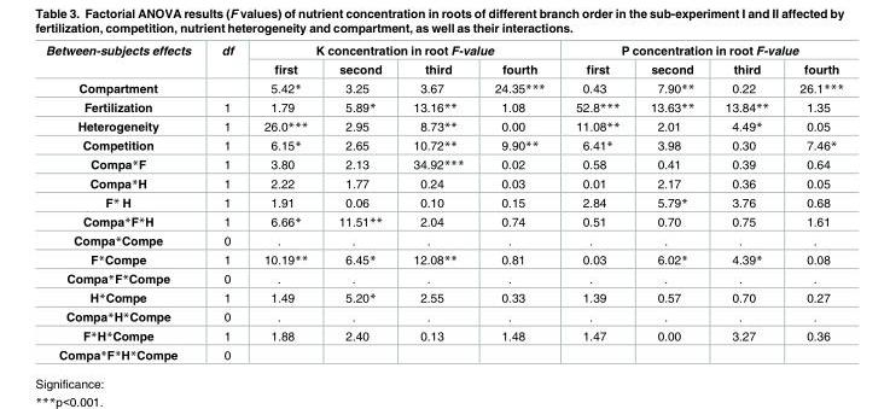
<table><thead><tr><td rowspan="2">Between-subjects effects</td><td rowspan="2">df</td><td colspan="4">K concentration in root F-value</td><td colspan="4">P concentration in root F-value</td></tr><tr><td>first</td><td>second</td><td>third</td><td>fourth</td><td>first</td><td>second</td><td>third</td><td>fourth</td></tr></thead><tbody><tr><td>Compartment</td><td></td><td>5.42*</td><td>3.25</td><td>3.67</td><td>24.35***</td><td>0.43</td><td>7.90**</td><td>0.22</td><td>26.1***</td></tr><tr><td>Fertilization</td><td>1</td><td>1.79</td><td>5.89*</td><td>13.16**</td><td>1.08</td><td>52.8***</td><td>13.63**</td><td>13.84**</td><td>1.35</td></tr><tr><td>Heterogeneity</td><td>1</td><td>26.0***</td><td>2.95</td><td>8.73**</td><td>0.00</td><td>11.08**</td><td>2.01</td><td>4.49*</td><td>0.05</td></tr><tr><td>Competition</td><td>1</td><td>6.15*</td><td>2.65</td><td>10.72**</td><td>9.90**</td><td>6.41*</td><td>3.98</td><td>0.30</td><td>7.46*</td></tr><tr><td>Compa*F</td><td>1</td><td>3.80</td><td>2.13</td><td>34.92***</td><td>0.02</td><td>0.58</td><td>0.41</td><td>0.39</td><td>0.64</td></tr><tr><td>Compa*H</td><td>1</td><td>2.22</td><td>1.77</td><td>0.24</td><td>0.03</td><td>0.01</td><td>2.17</td><td>0.36</td><td>0.05</td></tr><tr><td>F* H</td><td>1</td><td>1.91</td><td>0.06</td><td>0.10</td><td>0.15</td><td>2.84</td><td>5.79*</td><td>3.76</td><td>0.68</td></tr><tr><td>Compa*F*H</td><td>1</td><td>6.66*</td><td>11.51**</td><td>2.04</td><td>0.74</td><td>0.51</td><td>0.70</td><td>0.75</td><td>1.61</td></tr><tr><td>Compa*Compe</td><td>0</td><td>.</td><td>.</td><td>.</td><td>.</td><td>.</td><td>.</td><td>.</td><td>.</td></tr><tr><td>F*Compe</td><td>1</td><td>10.19**</td><td>6.45*</td><td>12.08**</td><td>0.81</td><td>0.03</td><td>6.02*</td><td>4.39*</td><td>0.08</td></tr><tr><td>Compa*F*Compe</td><td>0</td><td>.</td><td>.</td><td>.</td><td>.</td><td>.</td><td>.</td><td>.</td><td>.</td></tr><tr><td>H*Compe</td><td>1</td><td>1.49</td><td>5.20*</td><td>2.55</td><td>0.33</td><td>1.39</td><td>0.57</td><td>0.70</td><td>0.27</td></tr><tr><td>Compa*H*Compe</td><td>0</td><td>.</td><td>.</td><td>.</td><td>.</td><td>.</td><td>.</td><td>.</td><td>.</td></tr><tr><td>F*H*Compe</td><td>1</td><td>1.88</td><td>2.40</td><td>0.13</td><td>1.48</td><td>1.47</td><td>0.00</td><td>3.27</td><td>0.36</td></tr><tr><td>Compa*F*H*Compe</td><td>0</td><td></td><td></td><td></td><td></td><td></td><td></td><td></td><td></td></tr></tbody></table>